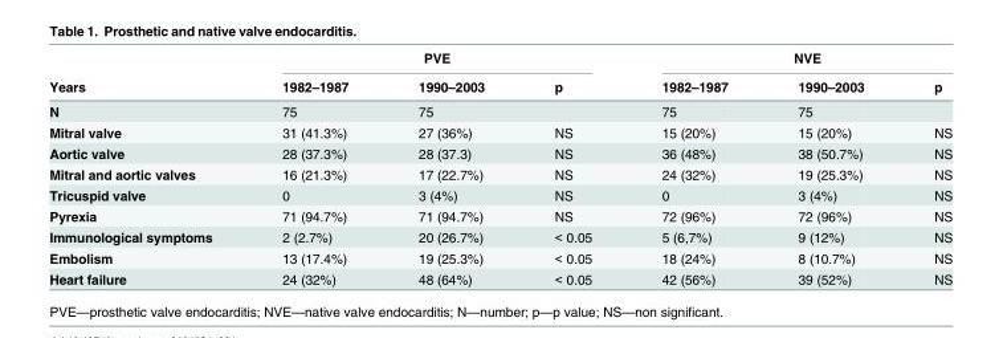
<table><thead><tr><td rowspan="2">Years</td><td colspan="3">PVE</td><td colspan="3">NVE</td></tr><tr><td>1982–1987</td><td>1990–2003</td><td>p</td><td>1982–1987</td><td>1990–2003</td><td>p</td></tr></thead><tbody><tr><td>N</td><td>75</td><td>75</td><td></td><td>75</td><td>75</td><td></td></tr><tr><td>Mitral valve</td><td>31 (41.3%)</td><td>27 (36%)</td><td>NS</td><td>15 (20%)</td><td>15 (20%)</td><td>NS</td></tr><tr><td>Aortic valve</td><td>28 (37.3%)</td><td>28 (37.3)</td><td>NS</td><td>36 (48%)</td><td>38 (50.7%)</td><td>NS</td></tr><tr><td>Mitral and aortic valves</td><td>16 (21.3%)</td><td>17 (22.7%)</td><td>NS</td><td>24 (32%)</td><td>19 (25.3%)</td><td>NS</td></tr><tr><td>Tricuspid valve</td><td>0</td><td>3 (4%)</td><td>NS</td><td>0</td><td>3 (4%)</td><td>NS</td></tr><tr><td>Pyrexia</td><td>71 (94.7%)</td><td>71 (94.7%)</td><td>NS</td><td>72 (96%)</td><td>72 (96%)</td><td>NS</td></tr><tr><td>Immunological symptoms</td><td>2 (2.7%)</td><td>20 (26.7%)</td><td>&lt; 0.05</td><td>5 (6,7%)</td><td>9 (12%)</td><td>NS</td></tr><tr><td>Embolism</td><td>13 (17.4%)</td><td>19 (25.3%)</td><td>&lt; 0.05</td><td>18 (24%)</td><td>8 (10.7%)</td><td>NS</td></tr><tr><td>Heart failure</td><td>24 (32%)</td><td>48 (64%)</td><td>&lt; 0.05</td><td>42 (56%)</td><td>39 (52%)</td><td>NS</td></tr></tbody></table>